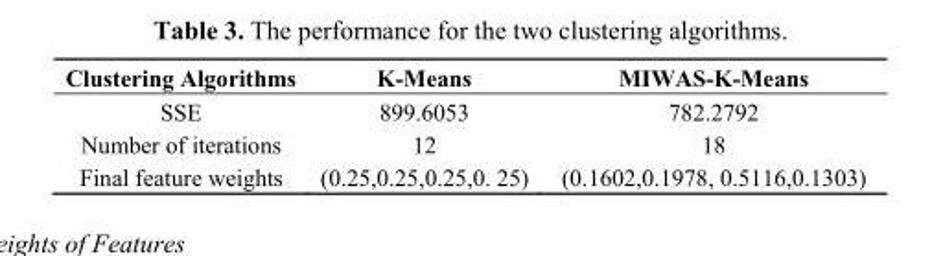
<table><thead><tr><td>Clustering Algorithms</td><td>K-Means</td><td>MIWAS-K-Means</td></tr></thead><tbody><tr><td>SSE</td><td>899.6053</td><td>782.2792</td></tr><tr><td>Number of iterations</td><td>12</td><td>18</td></tr><tr><td>Final feature weights</td><td>(0.25,0.25,0.25,0. 25)</td><td>(0.1602,0.1978, 0.5116,0.1303)</td></tr></tbody></table>